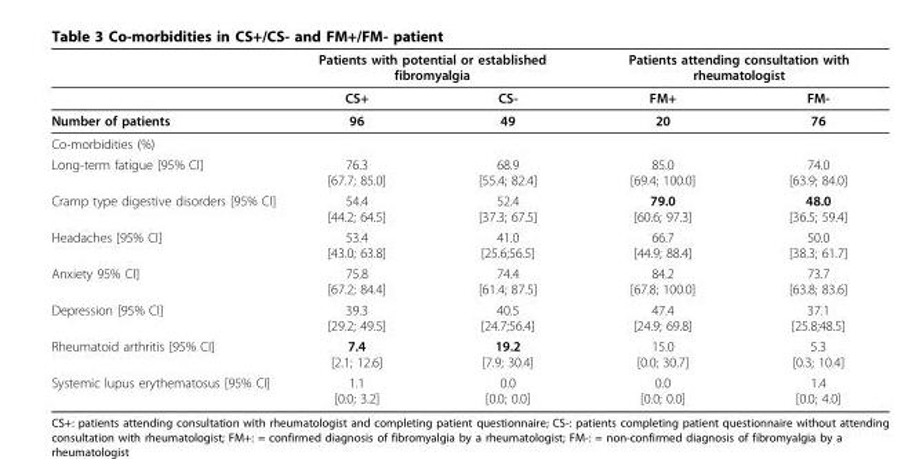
<table><thead><tr><td rowspan="2"></td><td colspan="2">Patients with potential or established fibromyalgia</td><td colspan="2">Patients attending consultation with rheumatologist</td></tr><tr><td>CS+</td><td>CS-</td><td>FM+</td><td>FM-</td></tr></thead><tbody><tr><td>Number of patients</td><td>96</td><td>49</td><td>20</td><td>76</td></tr><tr><td colspan="5">Co-morbidities (%)</td></tr><tr><td>Long-term fatigue [95% CI]</td><td>76.3 [67.7; 85.0]</td><td>68.9 [55.4; 82.4]</td><td>85.0 [69.4; 100.0]</td><td>74.0 [63.9; 84.0]</td></tr><tr><td>Cramp type digestive disorders [95% CI]</td><td>54.4 [44.2; 64.5]</td><td>52.4 [37.3; 67.5]</td><td>79.0 [60.6; 97.3]</td><td>48.0 [36.5; 59.4]</td></tr><tr><td>Headaches [95% CI]</td><td>53.4 [43.0; 63.8]</td><td>41.0 [25.6;56.5]</td><td>66.7 [44.9; 88.4]</td><td>50.0 [38.3; 61.7]</td></tr><tr><td>Anxiety 95% CI]</td><td>75.8 [67.2; 84.4]</td><td>74.4 [61.4; 87.5]</td><td>84.2 [67.8; 100.0]</td><td>73.7 [63.8; 83.6]</td></tr><tr><td>Depression [95% CI]</td><td>39.3 [29.2; 49.5]</td><td>40.5 [24.7;56.4]</td><td>47.4 [24.9; 69.8]</td><td>37.1 [25.8;48.5]</td></tr><tr><td>Rheumatoid arthritis [95% CI]</td><td>7.4 [2.1; 12.6]</td><td>19.2 [7.9; 30.4]</td><td>15.0 [0.0; 30.7]</td><td>5.3 [0.3; 10.4]</td></tr><tr><td>Systemic lupus erythematosus [95% CI]</td><td>1.1 [0.0; 3.2]</td><td>0.0 [0.0; 0.0]</td><td>0.0 [0.0; 0.0]</td><td>1.4 [0.0; 4.0]</td></tr></tbody></table>